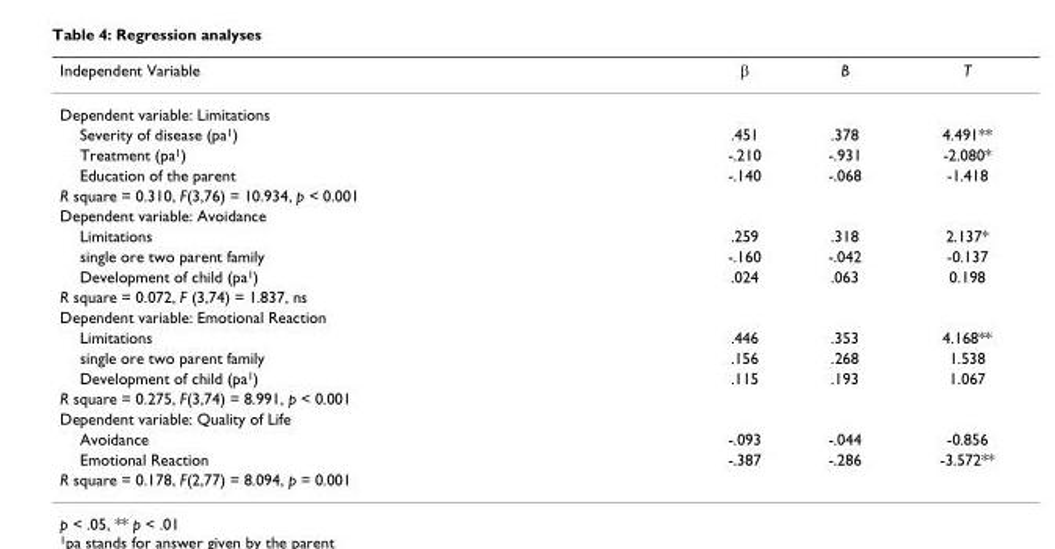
<table><thead><tr><td>Independent Variable</td><td>β</td><td>B</td><td>T</td></tr></thead><tbody><tr><td colspan="4">Dependent variable: Limitations</td></tr><tr><td>Severity of disease (pa<sup>1</sup>)</td><td>.451</td><td>.378</td><td>4.491**</td></tr><tr><td>Treatment (pa<sup>1</sup>)</td><td>-.210</td><td>-.931</td><td>-2.080*</td></tr><tr><td>Education of the parent</td><td>-.140</td><td>-.068</td><td>-1.418</td></tr><tr><td colspan="4">R square = 0.310, F(3,76) = 10.934, p &lt; 0.001</td></tr><tr><td colspan="4">Dependent variable: Avoidance</td></tr><tr><td>Limitations</td><td>.259</td><td>.318</td><td>2.137*</td></tr><tr><td>single ore two parent family</td><td>-.160</td><td>-.042</td><td>-0.137</td></tr><tr><td>Development of child (pa<sup>1</sup>)</td><td>.024</td><td>.063</td><td>0.198</td></tr><tr><td colspan="4">R square = 0.072, F (3,74) = 1.837, ns</td></tr><tr><td colspan="4">Dependent variable: Emotional Reaction</td></tr><tr><td>Limitations</td><td>.446</td><td>.353</td><td>4.168**</td></tr><tr><td>single ore two parent family</td><td>.156</td><td>.268</td><td>1.538</td></tr><tr><td>Development of child (pa<sup>1</sup>)</td><td>.115</td><td>.193</td><td>1.067</td></tr><tr><td colspan="4">R square = 0.275, F(3,74) = 8.991, p &lt; 0.001</td></tr><tr><td colspan="4">Dependent variable: Quality of Life</td></tr><tr><td>Avoidance</td><td>-.093</td><td>-.044</td><td>-0.856</td></tr><tr><td>Emotional Reaction</td><td>-.387</td><td>-.286</td><td>-3.572**</td></tr><tr><td>R square = 0.178, F(2,77) = 8.094, p = 0.001</td><td></td><td></td><td></td></tr></tbody></table>